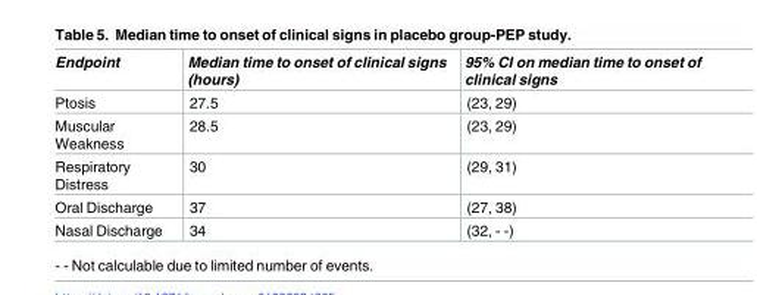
<table><thead><tr><td>Endpoint</td><td>Median time to onset of clinical signs (hours)</td><td>95% CI on median time to onset of clinical signs</td></tr></thead><tbody><tr><td>Ptosis</td><td>27.5</td><td>(23, 29)</td></tr><tr><td>Muscular Weakness</td><td>28.5</td><td>(23, 29)</td></tr><tr><td>Respiratory Distress</td><td>30</td><td>(29, 31)</td></tr><tr><td>Oral Discharge</td><td>37</td><td>(27, 38)</td></tr><tr><td>Nasal Discharge</td><td>34</td><td>(32, - -)</td></tr></tbody></table>